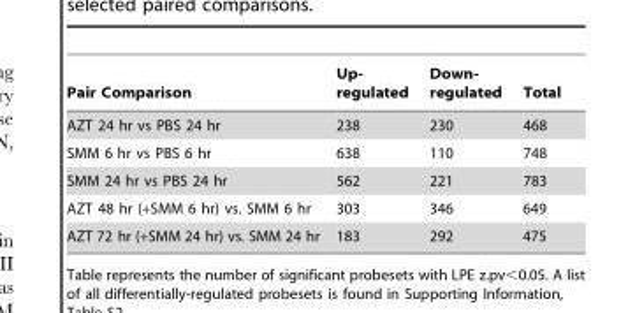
<table><thead><tr><td>Pair Comparison</td><td>Up- regulated</td><td>Down- regulated</td><td>Total</td></tr></thead><tbody><tr><td>AZT 24 hr vs PBS 24 hr</td><td>238</td><td>230</td><td>468</td></tr><tr><td>SMM 6 hr vs PBS 6 hr</td><td>638</td><td>110</td><td>748</td></tr><tr><td>SMM 24 hr vs PBS 24 hr</td><td>562</td><td>221</td><td>783</td></tr><tr><td>AZT 48 hr (+SMM 6 hr) vs. SMM 6 hr</td><td>303</td><td>346</td><td>649</td></tr><tr><td>AZT 72 hr (+SMM 24 hr) vs. SMM 24 hr</td><td>183</td><td>292</td><td>475</td></tr></tbody></table>